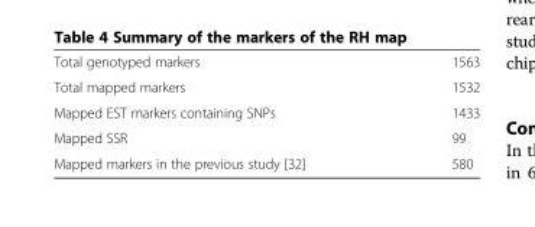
<table><tbody><tr><td>Total genotyped markers</td><td>1563</td></tr><tr><td>Total mapped markers</td><td>1532</td></tr><tr><td>Mapped EST markers containing SNPs</td><td>1433</td></tr><tr><td>Mapped SSR</td><td>99</td></tr><tr><td>Mapped markers in the previous study [32]</td><td>580</td></tr></tbody></table>